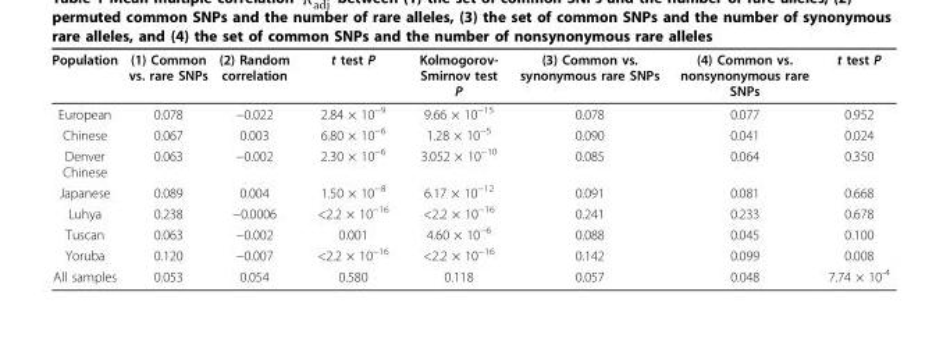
<table><thead><tr><td>Population</td><td>(1) Common vs. rare SNPs</td><td>(2) Random correlation</td><td>t test P</td><td>Kolmogorov- Smirnov test P</td><td>(3) Common vs. synonymous rare SNPs</td><td>(4) Common vs. nonsynonymous rare SNPs</td><td>t test P</td></tr></thead><tbody><tr><td>European</td><td>0.078</td><td>−0.022</td><td>2.84 × 10<sup>−9</sup></td><td>9.66 × 10<sup>−15</sup></td><td>0.078</td><td>0.077</td><td>0.952</td></tr><tr><td>Chinese</td><td>0.067</td><td>0.003</td><td>6.80 × 10<sup>−6</sup></td><td>1.28 × 10<sup>−5</sup></td><td>0.090</td><td>0.041</td><td>0.024</td></tr><tr><td>Denver Chinese</td><td>0.063</td><td>−0.002</td><td>2.30 × 10<sup>−6</sup></td><td>3.052 × 10<sup>−10</sup></td><td>0.085</td><td>0.064</td><td>0.350</td></tr><tr><td>Japanese</td><td>0.089</td><td>0.004</td><td>1.50 × 10<sup>−8</sup></td><td>6.17 × 10<sup>−12</sup></td><td>0.091</td><td>0.081</td><td>0.668</td></tr><tr><td>Luhya</td><td>0.238</td><td>−0.0006</td><td>&lt;2.2 × 10<sup>−16</sup></td><td>&lt;2.2 × 10<sup>−16</sup></td><td>0.241</td><td>0.233</td><td>0.678</td></tr><tr><td>Tuscan</td><td>0.063</td><td>−0.002</td><td>0.001</td><td>4.60 × 10<sup>−6</sup></td><td>0.088</td><td>0.045</td><td>0.100</td></tr><tr><td>Yoruba</td><td>0.120</td><td>−0.007</td><td>&lt;2.2 × 10<sup>−16</sup></td><td>&lt;2.2 × 10<sup>−16</sup></td><td>0.142</td><td>0.099</td><td>0.008</td></tr><tr><td>All samples</td><td>0.053</td><td>0.054</td><td>0.580</td><td>0.118</td><td>0.057</td><td>0.048</td><td>7.74 × 10<sup>-4</sup></td></tr></tbody></table>